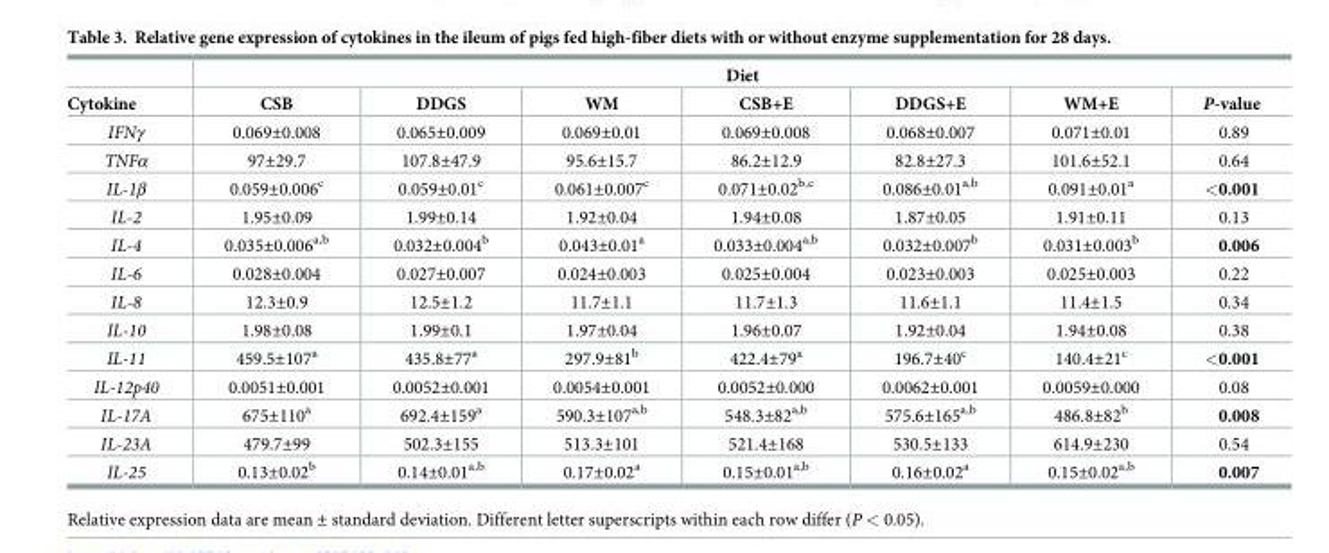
<table><thead><tr><td rowspan="2">Cytokine</td><td colspan="7">Diet</td></tr><tr><td>CSB</td><td>DDGS</td><td>WM</td><td>CSB+E</td><td>DDGS+E</td><td>WM+E</td><td>P-value</td></tr></thead><tbody><tr><td>IFNγ</td><td>0.069±0.008</td><td>0.065±0.009</td><td>0.069±0.01</td><td>0.069±0.008</td><td>0.068±0.007</td><td>0.071±0.01</td><td>0.89</td></tr><tr><td>TNFα</td><td>97±29.7</td><td>107.8±47.9</td><td>95.6±15.7</td><td>86.2±12.9</td><td>82.8±27.3</td><td>101.6±52.1</td><td>0.64</td></tr><tr><td>IL-1β</td><td>0.059±0.006<sup>c</sup></td><td>0.059±0.01<sup>c</sup></td><td>0.061±0.007<sup>c</sup></td><td>0.071±0.02<sup>b,c</sup></td><td>0.086±0.01<sup>a,b</sup></td><td>0.091±0.01<sup>a</sup></td><td>&lt;0.001</td></tr><tr><td>IL-2</td><td>1.95±0.09</td><td>1.99±0.14</td><td>1.92±0.04</td><td>1.94±0.08</td><td>1.87±0.05</td><td>1.91±0.11</td><td>0.13</td></tr><tr><td>IL-4</td><td>0.035±0.006<sup>a,b</sup></td><td>0.032±0.004<sup>b</sup></td><td>0.043±0.01<sup>a</sup></td><td>0.033±0.004<sup>a,b</sup></td><td>0.032±0.007<sup>b</sup></td><td>0.031±0.003<sup>b</sup></td><td>0.006</td></tr><tr><td>IL-6</td><td>0.028±0.004</td><td>0.027±0.007</td><td>0.024±0.003</td><td>0.025±0.004</td><td>0.023±0.003</td><td>0.025±0.003</td><td>0.22</td></tr><tr><td>IL-8</td><td>12.3±0.9</td><td>12.5±1.2</td><td>11.7±1.1</td><td>11.7±1.3</td><td>11.6±1.1</td><td>11.4±1.5</td><td>0.34</td></tr><tr><td>IL-10</td><td>1.98±0.08</td><td>1.99±0.1</td><td>1.97±0.04</td><td>1.96±0.07</td><td>1.92±0.04</td><td>1.94±0.08</td><td>0.38</td></tr><tr><td>IL-11</td><td>459.5±107<sup>a</sup></td><td>435.8±77<sup>a</sup></td><td>297.9±81<sup>b</sup></td><td>422.4±79<sup>a</sup></td><td>196.7±40<sup>c</sup></td><td>140.4±21<sup>c</sup></td><td>&lt;0.001</td></tr><tr><td>IL-12p40</td><td>0.0051±0.001</td><td>0.0052±0.001</td><td>0.0054±0.001</td><td>0.0052±0.000</td><td>0.0062±0.001</td><td>0.0059±0.000</td><td>0.08</td></tr><tr><td>IL-17A</td><td>675±110<sup>a</sup></td><td>692.4±159<sup>a</sup></td><td>590.3±107<sup>a,b</sup></td><td>548.3±82<sup>a,b</sup></td><td>575.6±165<sup>a,b</sup></td><td>486.8±82<sup>b</sup></td><td>0.008</td></tr><tr><td>IL-23A</td><td>479.7±99</td><td>502.3±155</td><td>513.3±101</td><td>521.4±168</td><td>530.5±133</td><td>614.9±230</td><td>0.54</td></tr><tr><td>IL-25</td><td>0.13±0.02<sup>b</sup></td><td>0.14±0.01<sup>a,b</sup></td><td>0.17±0.02<sup>a</sup></td><td>0.15±0.01<sup>a,b</sup></td><td>0.16±0.02<sup>a</sup></td><td>0.15±0.02<sup>a,b</sup></td><td>0.007</td></tr></tbody></table>